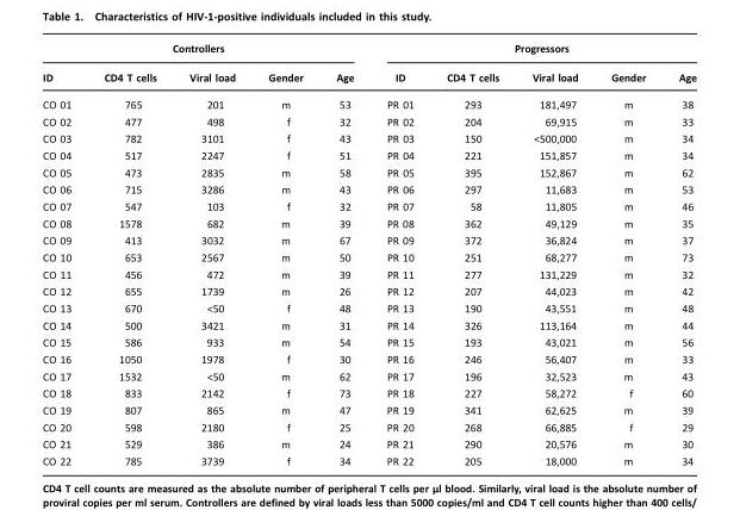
<table><thead><tr><td colspan="5">Controllers</td><td colspan="5">Progressors</td></tr><tr><td>ID</td><td>CD4 T cells</td><td>Viral load</td><td>Gender</td><td>Age</td><td>ID</td><td>CD4 T cells</td><td>Viral load</td><td>Gender</td><td>Age</td></tr></thead><tbody><tr><td>CO 01</td><td>765</td><td>201</td><td>m</td><td>53</td><td>PR 01</td><td>293</td><td>181,497</td><td>m</td><td>38</td></tr><tr><td>CO 02</td><td>477</td><td>498</td><td>f</td><td>32</td><td>PR 02</td><td>204</td><td>69,915</td><td>m</td><td>33</td></tr><tr><td>CO 03</td><td>782</td><td>3101</td><td>f</td><td>43</td><td>PR 03</td><td>150</td><td>&lt;500,000</td><td>m</td><td>34</td></tr><tr><td>CO 04</td><td>517</td><td>2247</td><td>f</td><td>51</td><td>PR 04</td><td>221</td><td>151,857</td><td>m</td><td>34</td></tr><tr><td>CO 05</td><td>473</td><td>2835</td><td>m</td><td>58</td><td>PR 05</td><td>395</td><td>152,867</td><td>m</td><td>62</td></tr><tr><td>CO 06</td><td>715</td><td>3286</td><td>m</td><td>43</td><td>PR 06</td><td>297</td><td>11,683</td><td>m</td><td>53</td></tr><tr><td>CO 07</td><td>547</td><td>103</td><td>f</td><td>32</td><td>PR 07</td><td>58</td><td>11,805</td><td>m</td><td>46</td></tr><tr><td>CO 08</td><td>1578</td><td>682</td><td>m</td><td>39</td><td>PR 08</td><td>362</td><td>49,129</td><td>m</td><td>35</td></tr><tr><td>CO 09</td><td>413</td><td>3032</td><td>m</td><td>67</td><td>PR 09</td><td>372</td><td>36,824</td><td>m</td><td>37</td></tr><tr><td>CO 10</td><td>653</td><td>2567</td><td>m</td><td>50</td><td>PR 10</td><td>251</td><td>68,277</td><td>m</td><td>73</td></tr><tr><td>CO 11</td><td>456</td><td>472</td><td>m</td><td>39</td><td>PR 11</td><td>277</td><td>131,229</td><td>m</td><td>32</td></tr><tr><td>CO 12</td><td>655</td><td>1739</td><td>m</td><td>26</td><td>PR 12</td><td>207</td><td>44,023</td><td>m</td><td>42</td></tr><tr><td>CO 13</td><td>670</td><td>&lt;50</td><td>f</td><td>48</td><td>PR 13</td><td>190</td><td>43,551</td><td>m</td><td>48</td></tr><tr><td>CO 14</td><td>500</td><td>3421</td><td>m</td><td>31</td><td>PR 14</td><td>326</td><td>113,164</td><td>m</td><td>44</td></tr><tr><td>CO 15</td><td>586</td><td>933</td><td>m</td><td>54</td><td>PR 15</td><td>193</td><td>43,021</td><td>m</td><td>56</td></tr><tr><td>CO 16</td><td>1050</td><td>1978</td><td>f</td><td>30</td><td>PR 16</td><td>246</td><td>56,407</td><td>m</td><td>33</td></tr><tr><td>CO 17</td><td>1532</td><td>&lt;50</td><td>m</td><td>62</td><td>PR 17</td><td>196</td><td>32,523</td><td>m</td><td>43</td></tr><tr><td>CO 18</td><td>833</td><td>2142</td><td>f</td><td>73</td><td>PR 18</td><td>227</td><td>58,272</td><td>f</td><td>60</td></tr><tr><td>CO 19</td><td>807</td><td>865</td><td>m</td><td>47</td><td>PR 19</td><td>341</td><td>62,625</td><td>m</td><td>39</td></tr><tr><td>CO 20</td><td>598</td><td>2180</td><td>f</td><td>25</td><td>PR 20</td><td>268</td><td>66,885</td><td>f</td><td>29</td></tr><tr><td>CO 21</td><td>529</td><td>386</td><td>m</td><td>24</td><td>PR 21</td><td>290</td><td>20,576</td><td>m</td><td>30</td></tr><tr><td>CO 22</td><td>785</td><td>3739</td><td>f</td><td>34</td><td>PR 22</td><td>205</td><td>18,000</td><td>m</td><td>34</td></tr></tbody></table>